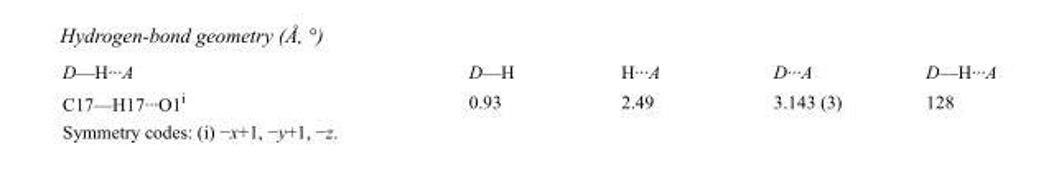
<table><tbody><tr><td>D—H···A</td><td>D—H</td><td>H···A</td><td>D···A</td><td>D—H···A</td></tr><tr><td>C17—H17···O1<sup>i</sup></td><td>0.93</td><td>2.49</td><td>3.143 (3)</td><td>128</td></tr></tbody></table>